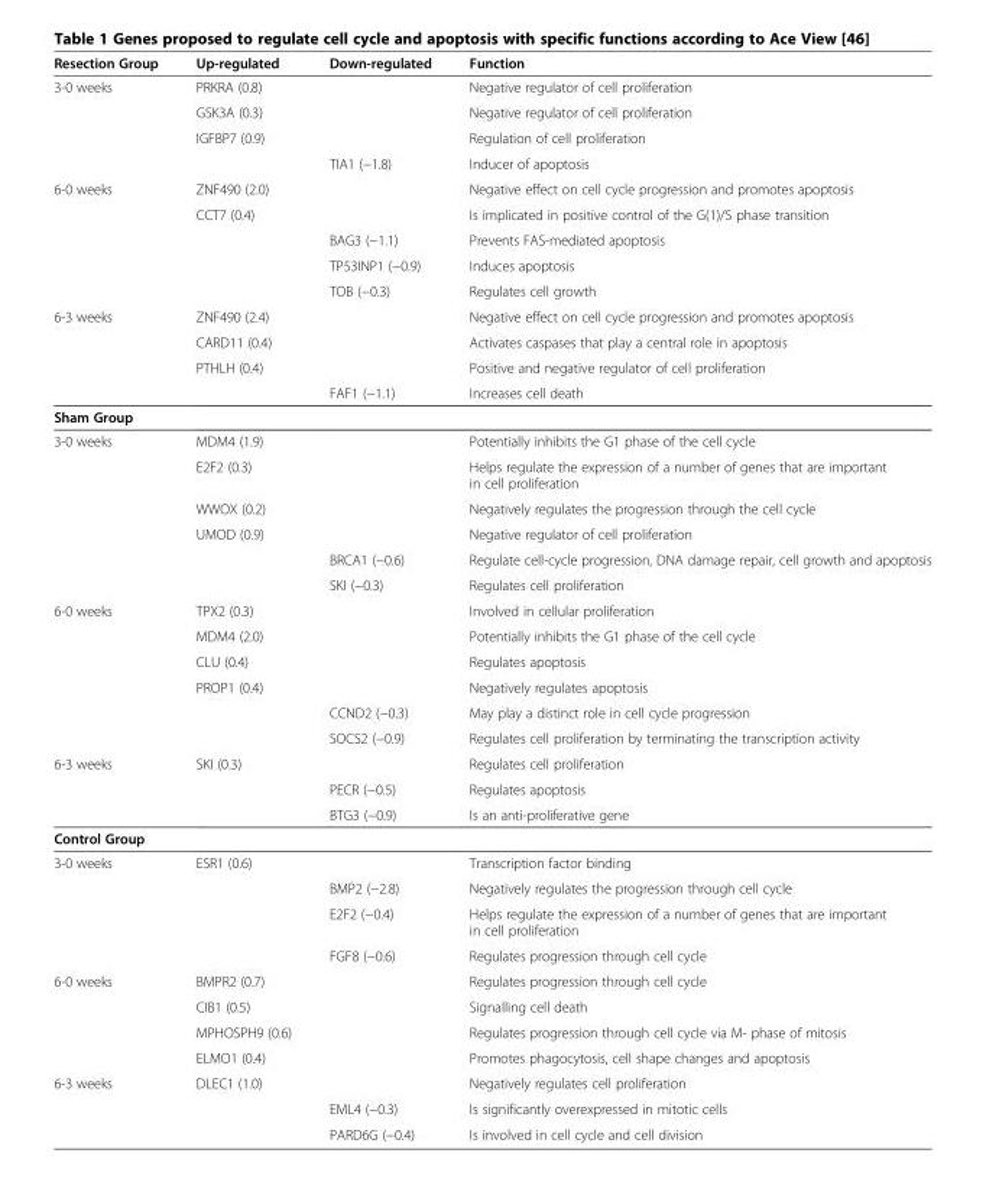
<table><thead><tr><td>Resection Group</td><td>Up-regulated</td><td>Down-regulated</td><td>Function</td></tr></thead><tbody><tr><td rowspan="4">3-0 weeks</td><td>PRKRA (0.8)</td><td></td><td>Negative regulator of cell proliferation</td></tr><tr><td>GSK3A (0.3)</td><td></td><td>Negative regulator of cell proliferation</td></tr><tr><td>IGFBP7 (0.9)</td><td></td><td>Regulation of cell proliferation</td></tr><tr><td></td><td>TIA1 (−1.8)</td><td>Inducer of apoptosis</td></tr><tr><td rowspan="5">6-0 weeks</td><td>ZNF490 (2.0)</td><td></td><td>Negative effect on cell cycle progression and promotes apoptosis</td></tr><tr><td>CCT7 (0.4)</td><td></td><td>Is implicated in positive control of the G(1)/S phase transition</td></tr><tr><td></td><td>BAG3 (−1.1)</td><td>Prevents FAS-mediated apoptosis</td></tr><tr><td></td><td>TP53INP1 (−0.9)</td><td>Induces apoptosis</td></tr><tr><td></td><td>TOB (−0.3)</td><td>Regulates cell growth</td></tr><tr><td rowspan="4">6-3 weeks</td><td>ZNF490 (2.4)</td><td></td><td>Negative effect on cell cycle progression and promotes apoptosis</td></tr><tr><td>CARD11 (0.4)</td><td></td><td>Activates caspases that play a central role in apoptosis</td></tr><tr><td>PTHLH (0.4)</td><td></td><td>Positive and negative regulator of cell proliferation</td></tr><tr><td></td><td>FAF1 (−1.1)</td><td>Increases cell death</td></tr><tr><td colspan="4">Sham Group</td></tr><tr><td rowspan="6">3-0 weeks</td><td>MDM4 (1.9)</td><td></td><td>Potentially inhibits the G1 phase of the cell cycle</td></tr><tr><td>E2F2 (0.3)</td><td></td><td>Helps regulate the expression of a number of genes that are important in cell proliferation</td></tr><tr><td>WWOX (0.2)</td><td></td><td>Negatively regulates the progression through the cell cycle</td></tr><tr><td>UMOD (0.9)</td><td></td><td>Negative regulator of cell proliferation</td></tr><tr><td></td><td>BRCA1 (−0.6)</td><td>Regulate cell-cycle progression, DNA damage repair, cell growth and apoptosis</td></tr><tr><td></td><td>SKI (−0.3)</td><td>Regulates cell proliferation</td></tr><tr><td rowspan="6">6-0 weeks</td><td>TPX2 (0.3)</td><td></td><td>Involved in cellular proliferation</td></tr><tr><td>MDM4 (2.0)</td><td></td><td>Potentially inhibits the G1 phase of the cell cycle</td></tr><tr><td>CLU (0.4)</td><td></td><td>Regulates apoptosis</td></tr><tr><td>PROP1 (0.4)</td><td></td><td>Negatively regulates apoptosis</td></tr><tr><td></td><td>CCND2 (−0.3)</td><td>May play a distinct role in cell cycle progression</td></tr><tr><td></td><td>SOCS2 (−0.9)</td><td>Regulates cell proliferation by terminating the transcription activity</td></tr><tr><td rowspan="3">6-3 weeks</td><td>SKI (0.3)</td><td></td><td>Regulates cell proliferation</td></tr><tr><td></td><td>PECR (−0.5)</td><td>Regulates apoptosis</td></tr><tr><td></td><td>BTG3 (−0.9)</td><td>Is an anti-proliferative gene</td></tr><tr><td colspan="4">Control Group</td></tr><tr><td rowspan="4">3-0 weeks</td><td>ESR1 (0.6)</td><td></td><td>Transcription factor binding</td></tr><tr><td></td><td>BMP2 (−2.8)</td><td>Negatively regulates the progression through cell cycle</td></tr><tr><td></td><td>E2F2 (−0.4)</td><td>Helps regulate the expression of a number of genes that are important in cell proliferation</td></tr><tr><td></td><td>FGF8 (−0.6)</td><td>Regulates progression through cell cycle</td></tr><tr><td rowspan="4">6-0 weeks</td><td>BMPR2 (0.7)</td><td></td><td>Regulates progression through cell cycle</td></tr><tr><td>CIB1 (0.5)</td><td></td><td>Signalling cell death</td></tr><tr><td>MPHOSPH9 (0.6)</td><td></td><td>Regulates progression through cell cycle via M- phase of mitosis</td></tr><tr><td>ELMO1 (0.4)</td><td></td><td>Promotes phagocytosis, cell shape changes and apoptosis</td></tr><tr><td rowspan="3">6-3 weeks</td><td>DLEC1 (1.0)</td><td></td><td>Negatively regulates cell proliferation</td></tr><tr><td></td><td>EML4 (−0.3)</td><td>Is significantly overexpressed in mitotic cells</td></tr><tr><td></td><td>PARD6G (−0.4)</td><td>Is involved in cell cycle and cell division</td></tr></tbody></table>